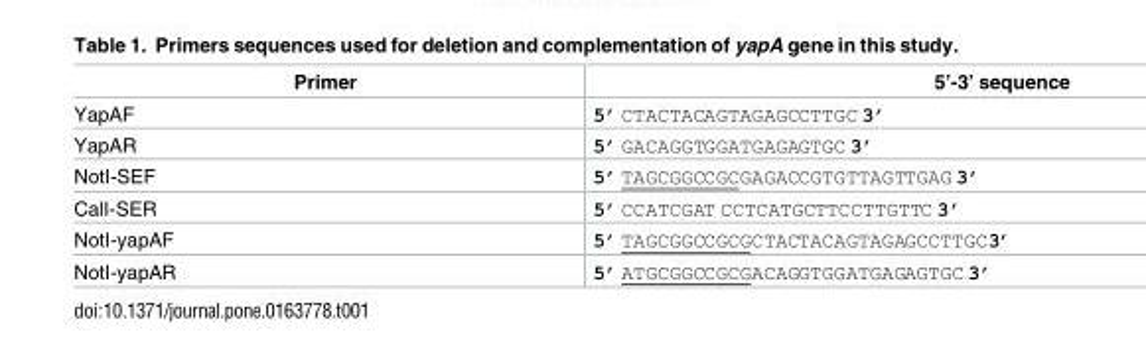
<table><thead><tr><td>Primer</td><td>5’-3’ sequence</td></tr></thead><tbody><tr><td>YapAF</td><td>5’ CTACTACAGTAGAGCCTTGC 3’</td></tr><tr><td>YapAR</td><td>5’ GACAGGTGGATGAGAGTGC 3’</td></tr><tr><td>NotI-SEF</td><td>5’ TAGCGGCCGCGAGACCGTGTTAGTTGAG 3’</td></tr><tr><td>CalI-SER</td><td>5’ CCATCGAT CCTCATGCTTCCTTGTTC 3’</td></tr><tr><td>NotI-yapAF</td><td>5’ TAGCGGCCGCGCTACTACAGTAGAGCCTTGC3’</td></tr><tr><td>NotI-yapAR</td><td>5’ ATGCGGCCGCGACAGGTGGATGAGAGTGC 3’</td></tr></tbody></table>